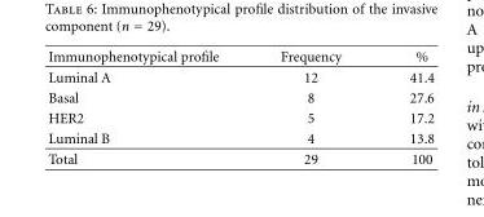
<table><thead><tr><td>Immunophenotypical profile</td><td>Frequency</td><td>%</td></tr></thead><tbody><tr><td>Luminal A</td><td>12</td><td>41.4</td></tr><tr><td>Basal</td><td>8</td><td>27.6</td></tr><tr><td>HER2</td><td>5</td><td>17.2</td></tr><tr><td>Luminal B</td><td>4</td><td>13.8</td></tr><tr><td>Total</td><td>29</td><td>100</td></tr></tbody></table>